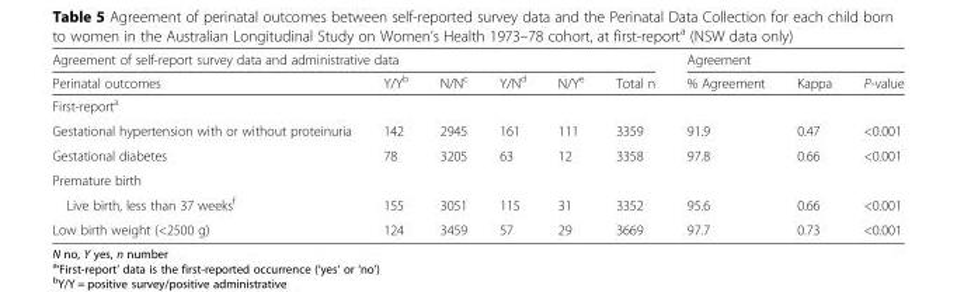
<table><thead><tr><td colspan="6">Agreement of self-report survey data and administrative data</td><td colspan="3">Agreement</td></tr><tr><td>Perinatal outcomes</td><td>Y/Y<sup>b</sup></td><td>N/N<sup>c</sup></td><td>Y/N<sup>d</sup></td><td>N/Y<sup>e</sup></td><td>Total n</td><td>% Agreement</td><td>Kappa</td><td>P-value</td></tr></thead><tbody><tr><td colspan="9">First-report<sup>a</sup></td></tr><tr><td>Gestational hypertension with or without proteinuria</td><td>142</td><td>2945</td><td>161</td><td>111</td><td>3359</td><td>91.9</td><td>0.47</td><td>&lt;0.001</td></tr><tr><td>Gestational diabetes</td><td>78</td><td>3205</td><td>63</td><td>12</td><td>3358</td><td>97.8</td><td>0.66</td><td>&lt;0.001</td></tr><tr><td colspan="9">Premature birth</td></tr><tr><td>Live birth, less than 37 weeks<sup>f</sup></td><td>155</td><td>3051</td><td>115</td><td>31</td><td>3352</td><td>95.6</td><td>0.66</td><td>&lt;0.001</td></tr><tr><td>Low birth weight (&lt;2500 g)</td><td>124</td><td>3459</td><td>57</td><td>29</td><td>3669</td><td>97.7</td><td>0.73</td><td>&lt;0.001</td></tr></tbody></table>